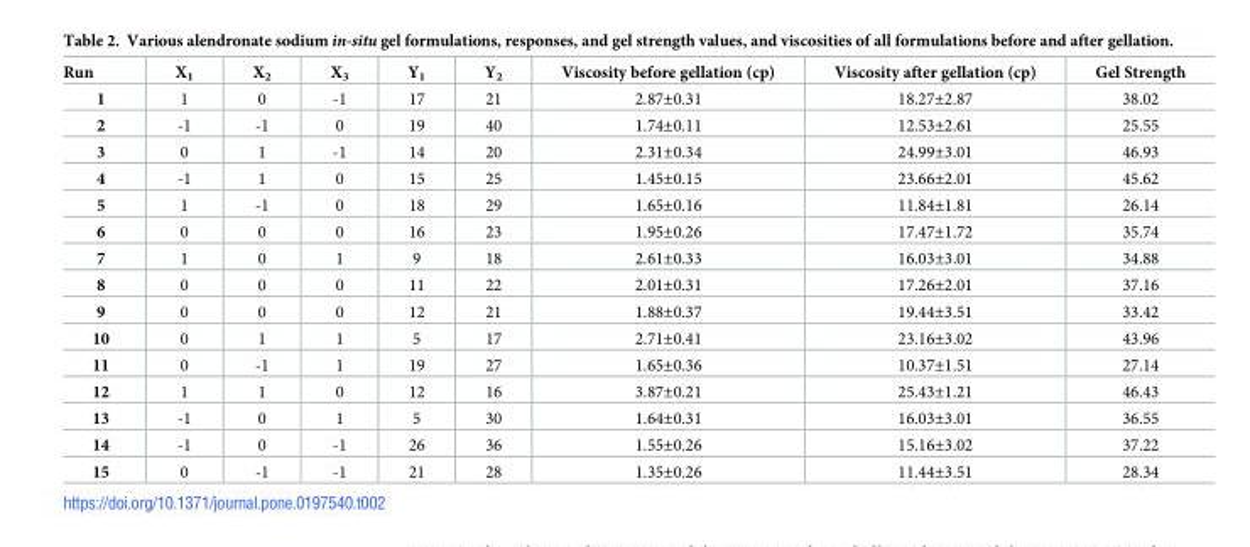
<table><thead><tr><td>Run</td><td>X<sub>1</sub></td><td>X<sub>2</sub></td><td>X<sub>3</sub></td><td>Y<sub>1</sub></td><td>Y<sub>2</sub></td><td>Viscosity before gellation (cp)</td><td>Viscosity after gellation (cp)</td><td>Gel Strength</td></tr></thead><tbody><tr><td>1</td><td>1</td><td>0</td><td>-1</td><td>17</td><td>21</td><td>2.87±0.31</td><td>18.27±2.87</td><td>38.02</td></tr><tr><td>2</td><td>-1</td><td>-1</td><td>0</td><td>19</td><td>40</td><td>1.74±0.11</td><td>12.53±2.61</td><td>25.55</td></tr><tr><td>3</td><td>0</td><td>1</td><td>-1</td><td>14</td><td>20</td><td>2.31±0.34</td><td>24.99±3.01</td><td>46.93</td></tr><tr><td>4</td><td>-1</td><td>1</td><td>0</td><td>15</td><td>25</td><td>1.45±0.15</td><td>23.66±2.01</td><td>45.62</td></tr><tr><td>5</td><td>1</td><td>-1</td><td>0</td><td>18</td><td>29</td><td>1.65±0.16</td><td>11.84±1.81</td><td>26.14</td></tr><tr><td>6</td><td>0</td><td>0</td><td>0</td><td>16</td><td>23</td><td>1.95±0.26</td><td>17.47±1.72</td><td>35.74</td></tr><tr><td>7</td><td>1</td><td>0</td><td>1</td><td>9</td><td>18</td><td>2.61±0.33</td><td>16.03±3.01</td><td>34.88</td></tr><tr><td>8</td><td>0</td><td>0</td><td>0</td><td>11</td><td>22</td><td>2.01±0.31</td><td>17.26±2.01</td><td>37.16</td></tr><tr><td>9</td><td>0</td><td>0</td><td>0</td><td>12</td><td>21</td><td>1.88±0.37</td><td>19.44±3.51</td><td>33.42</td></tr><tr><td>10</td><td>0</td><td>1</td><td>1</td><td>5</td><td>17</td><td>2.71±0.41</td><td>23.16±3.02</td><td>43.96</td></tr><tr><td>11</td><td>0</td><td>-1</td><td>1</td><td>19</td><td>27</td><td>1.65±0.36</td><td>10.37±1.51</td><td>27.14</td></tr><tr><td>12</td><td>1</td><td>1</td><td>0</td><td>12</td><td>16</td><td>3.87±0.21</td><td>25.43±1.21</td><td>46.43</td></tr><tr><td>13</td><td>-1</td><td>0</td><td>1</td><td>5</td><td>30</td><td>1.64±0.31</td><td>16.03±3.01</td><td>36.55</td></tr><tr><td>14</td><td>-1</td><td>0</td><td>-1</td><td>26</td><td>36</td><td>1.55±0.26</td><td>15.16±3.02</td><td>37.22</td></tr><tr><td>15</td><td>0</td><td>-1</td><td>-1</td><td>21</td><td>28</td><td>1.35±0.26</td><td>11.44±3.51</td><td>28.34</td></tr></tbody></table>